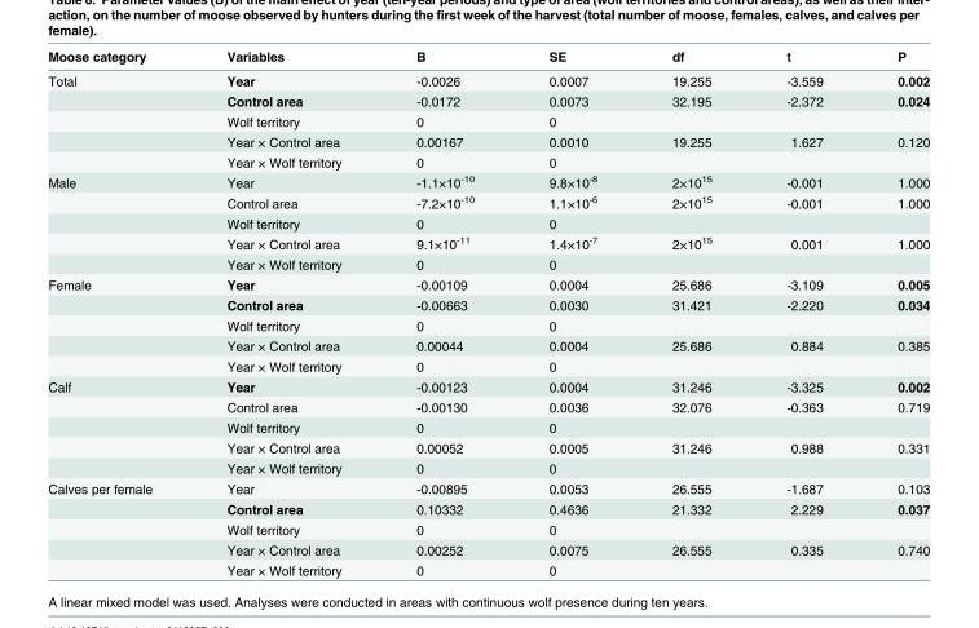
<table><thead><tr><td>Moose category</td><td>Variables</td><td>B</td><td>SE</td><td>df</td><td>t</td><td>P</td></tr></thead><tbody><tr><td rowspan="5">Total</td><td>Year</td><td>-0.0026</td><td>0.0007</td><td>19.255</td><td>-3.559</td><td>0.002</td></tr><tr><td>Control area</td><td>-0.0172</td><td>0.0073</td><td>32.195</td><td>-2.372</td><td>0.024</td></tr><tr><td>Wolf territory</td><td>0</td><td>0</td><td></td><td></td><td></td></tr><tr><td>Year × Control area</td><td>0.00167</td><td>0.0010</td><td>19.255</td><td>1.627</td><td>0.120</td></tr><tr><td>Year × Wolf territory</td><td>0</td><td>0</td><td></td><td></td><td></td></tr><tr><td rowspan="5">Male</td><td>Year</td><td>-1.1×10<sup>-10</sup></td><td>9.8×10<sup>-8</sup></td><td>2×10<sup>15</sup></td><td>-0.001</td><td>1.000</td></tr><tr><td>Control area</td><td>-7.2×10<sup>-10</sup></td><td>1.1×10<sup>-6</sup></td><td>2×10<sup>15</sup></td><td>-0.001</td><td>1.000</td></tr><tr><td>Wolf territory</td><td>0</td><td>0</td><td></td><td></td><td></td></tr><tr><td>Year × Control area</td><td>9.1×10<sup>-11</sup></td><td>1.4×10<sup>-7</sup></td><td>2×10<sup>15</sup></td><td>0.001</td><td>1.000</td></tr><tr><td>Year × Wolf territory</td><td>0</td><td>0</td><td></td><td></td><td></td></tr><tr><td rowspan="5">Female</td><td>Year</td><td>-0.00109</td><td>0.0004</td><td>25.686</td><td>-3.109</td><td>0.005</td></tr><tr><td>Control area</td><td>-0.00663</td><td>0.0030</td><td>31.421</td><td>-2.220</td><td>0.034</td></tr><tr><td>Wolf territory</td><td>0</td><td>0</td><td></td><td></td><td></td></tr><tr><td>Year × Control area</td><td>0.00044</td><td>0.0004</td><td>25.686</td><td>0.884</td><td>0.385</td></tr><tr><td>Year × Wolf territory</td><td>0</td><td>0</td><td></td><td></td><td></td></tr><tr><td rowspan="5">Calf</td><td>Year</td><td>-0.00123</td><td>0.0004</td><td>31.246</td><td>-3.325</td><td>0.002</td></tr><tr><td>Control area</td><td>-0.00130</td><td>0.0036</td><td>32.076</td><td>-0.363</td><td>0.719</td></tr><tr><td>Wolf territory</td><td>0</td><td>0</td><td></td><td></td><td></td></tr><tr><td>Year × Control area</td><td>0.00052</td><td>0.0005</td><td>31.246</td><td>0.988</td><td>0.331</td></tr><tr><td>Year × Wolf territory</td><td>0</td><td>0</td><td></td><td></td><td></td></tr><tr><td rowspan="5">Calves per female</td><td>Year</td><td>-0.00895</td><td>0.0053</td><td>26.555</td><td>-1.687</td><td>0.103</td></tr><tr><td>Control area</td><td>0.10332</td><td>0.4636</td><td>21.332</td><td>2.229</td><td>0.037</td></tr><tr><td>Wolf territory</td><td>0</td><td>0</td><td></td><td></td><td></td></tr><tr><td>Year × Control area</td><td>0.00252</td><td>0.0075</td><td>26.555</td><td>0.335</td><td>0.740</td></tr><tr><td>Year × Wolf territory</td><td>0</td><td>0</td><td></td><td></td><td></td></tr></tbody></table>